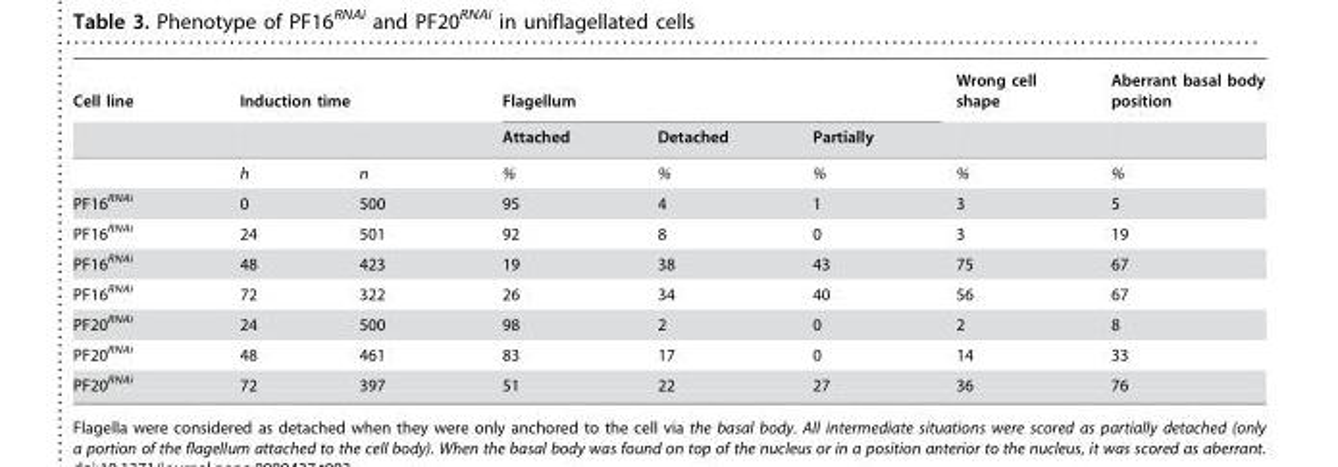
<table><thead><tr><td rowspan="2">Cell line</td><td rowspan="2">Induction time</td><td rowspan="2"></td><td colspan="3">Flagellum</td><td rowspan="2">Wrong cell shape</td><td rowspan="2">Aberrant basal body position</td></tr><tr><td>Attached</td><td>Detached</td><td>Partially</td></tr></thead><tbody><tr><td></td><td>h</td><td>n</td><td>%</td><td>%</td><td>%</td><td>%</td><td>%</td></tr><tr><td>PF16<sup>RNAi</sup></td><td>0</td><td>500</td><td>95</td><td>4</td><td>1</td><td>3</td><td>5</td></tr><tr><td>PF16<sup>RNAi</sup></td><td>24</td><td>501</td><td>92</td><td>8</td><td>0</td><td>3</td><td>19</td></tr><tr><td>PF16<sup>RNAi</sup></td><td>48</td><td>423</td><td>19</td><td>38</td><td>43</td><td>75</td><td>67</td></tr><tr><td>PF16<sup>RNAi</sup></td><td>72</td><td>322</td><td>26</td><td>34</td><td>40</td><td>56</td><td>67</td></tr><tr><td>PF20<sup>RNAi</sup></td><td>24</td><td>500</td><td>98</td><td>2</td><td>0</td><td>2</td><td>8</td></tr><tr><td>PF20<sup>RNAi</sup></td><td>48</td><td>461</td><td>83</td><td>17</td><td>0</td><td>14</td><td>33</td></tr><tr><td>PF20<sup>RNAi</sup></td><td>72</td><td>397</td><td>51</td><td>22</td><td>27</td><td>36</td><td>76</td></tr></tbody></table>